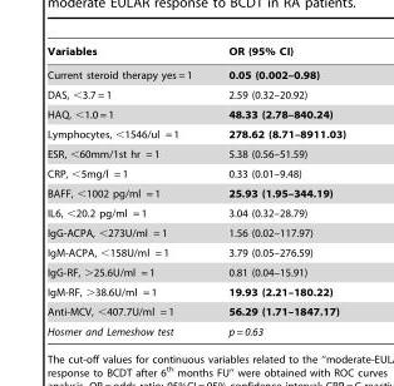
<table><thead><tr><td>Variables</td><td>OR (95% CI)</td></tr></thead><tbody><tr><td>Current steroid therapy yes = 1</td><td>0.05 (0.002–0.98)</td></tr><tr><td>DAS, &lt;3.7 = 1</td><td>2.59 (0.32–20.92)</td></tr><tr><td>HAQ, &lt;1.0 = 1</td><td>48.33 (2.78–840.24)</td></tr><tr><td>Lymphocytes, &lt;1546/ul = 1</td><td>278.62 (8.71–8911.03)</td></tr><tr><td>ESR, &lt;60mm/1st hr = 1</td><td>5.38 (0.56–51.59)</td></tr><tr><td>CRP, &lt;5mg/l = 1</td><td>0.33 (0.01–9.48)</td></tr><tr><td>BAFF, &lt;1002 pg/ml = 1</td><td>25.93 (1.95–344.19)</td></tr><tr><td>IL6, &lt;20.2 pg/ml = 1</td><td>3.04 (0.32–28.79)</td></tr><tr><td>IgG-ACPA, &lt;273U/ml = 1</td><td>1.56 (0.02–117.97)</td></tr><tr><td>IgM-ACPA, &lt;158U/ml = 1</td><td>3.79 (0.05–276.59)</td></tr><tr><td>IgG-RF, &gt;25.6U/ml = 1</td><td>0.81 (0.04–15.91)</td></tr><tr><td>IgM-RF, &gt;38.6U/ml = 1</td><td>19.93 (2.21–180.22)</td></tr><tr><td>Anti-MCV, &lt;407.7U/ml = 1</td><td>56.29 (1.71–1847.17)</td></tr><tr><td>Hosmer and Lemeshow test</td><td>p = 0.63</td></tr></tbody></table>